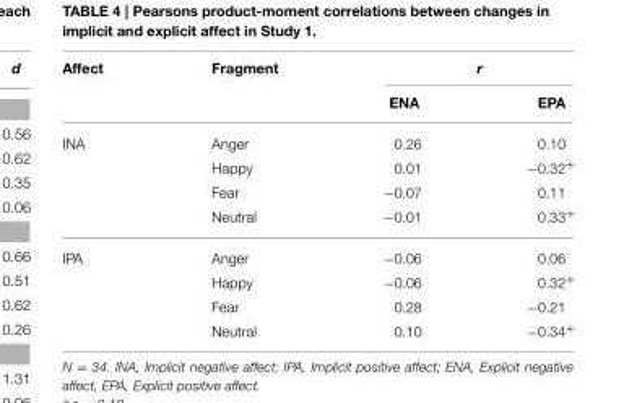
<table><thead><tr><td rowspan="2">Affect</td><td rowspan="2">Fragment</td><td colspan="2">r</td></tr><tr><td>ENA</td><td>EPA</td></tr></thead><tbody><tr><td rowspan="4">INA</td><td>Anger</td><td>0.26</td><td>0.10</td></tr><tr><td>Happy</td><td>0.01</td><td>−0.32<sup>+</sup></td></tr><tr><td>Fear</td><td>−0.07</td><td>0.11</td></tr><tr><td>Neutral</td><td>−0.01</td><td>0.33<sup>+</sup></td></tr><tr><td rowspan="4">IPA</td><td>Anger</td><td>−0.06</td><td>0.06</td></tr><tr><td>Happy</td><td>−0.06</td><td>0.32<sup>+</sup></td></tr><tr><td>Fear</td><td>0.28</td><td>−0.21</td></tr><tr><td>Neutral</td><td>0.10</td><td>−0.34<sup>+</sup></td></tr></tbody></table>